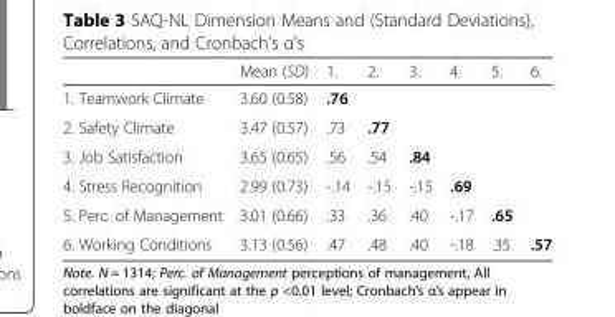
<table><thead><tr><td></td><td>Mean (SD)</td><td>1.</td><td>2.</td><td>3.</td><td>4.</td><td>5.</td><td>6.</td></tr></thead><tbody><tr><td>1. Teamwork Climate</td><td>3.60 (0.58)</td><td>.76</td><td></td><td></td><td></td><td></td><td></td></tr><tr><td>2. Safety Climate</td><td>3.47 (0.57)</td><td>.73</td><td>.77</td><td></td><td></td><td></td><td></td></tr><tr><td>3. Job Satisfaction</td><td>3.65 (0.65)</td><td>.56</td><td>.54</td><td>.84</td><td></td><td></td><td></td></tr><tr><td>4. Stress Recognition</td><td>2.99 (0.73)</td><td>-.14</td><td>-.15</td><td>-.15</td><td>.69</td><td></td><td></td></tr><tr><td>5. Perc. of Management</td><td>3.01 (0.66)</td><td>.33</td><td>.36</td><td>.40</td><td>-.17</td><td>.65</td><td></td></tr><tr><td>6. Working Conditions</td><td>3.13 (0.56)</td><td>.47</td><td>.48</td><td>.40</td><td>-.18</td><td>.35</td><td>.57</td></tr></tbody></table>